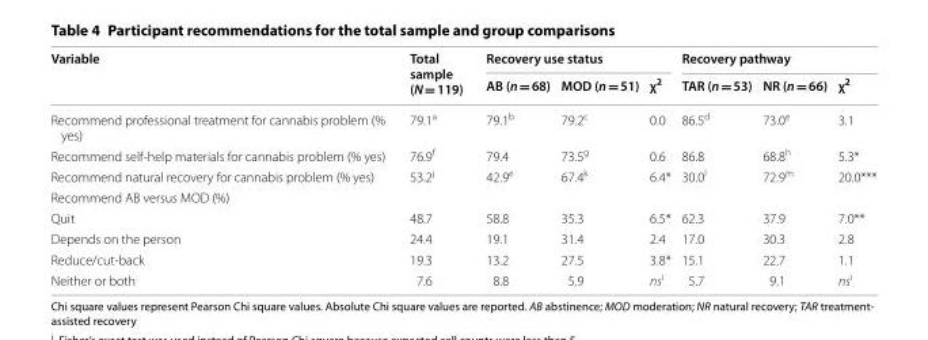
<table><thead><tr><td rowspan="2">Variable</td><td rowspan="2">Total sample (N = 119)</td><td colspan="3">Recovery use status</td><td colspan="3">Recovery pathway</td></tr><tr><td>AB (n = 68)</td><td>MOD (n = 51)</td><td>χ<sup>2</sup></td><td>TAR (n = 53)</td><td>NR (n = 66)</td><td>χ<sup>2</sup></td></tr></thead><tbody><tr><td>Recommend professional treatment for cannabis problem (% yes)</td><td>79.1<sup>a</sup></td><td>79.1<sup>b</sup></td><td>79.2<sup>c</sup></td><td>0.0</td><td>86.5<sup>d</sup></td><td>73.0<sup>e</sup></td><td>3.1</td></tr><tr><td>Recommend self-help materials for cannabis problem (% yes)</td><td>76.9<sup>f</sup></td><td>79.4</td><td>73.5<sup>g</sup></td><td>0.6</td><td>86.8</td><td>68.8<sup>h</sup></td><td>5.3*</td></tr><tr><td>Recommend natural recovery for cannabis problem (% yes)</td><td>53.2<sup>j</sup></td><td>42.9<sup>e</sup></td><td>67.4<sup>k</sup></td><td>6.4*</td><td>30.0<sup>l</sup></td><td>72.9<sup>m</sup></td><td>20.0***</td></tr><tr><td colspan="8">Recommend AB versus MOD (%)</td></tr><tr><td>Quit</td><td>48.7</td><td>58.8</td><td>35.3</td><td>6.5*</td><td>62.3</td><td>37.9</td><td>7.0**</td></tr><tr><td>Depends on the person</td><td>24.4</td><td>19.1</td><td>31.4</td><td>2.4</td><td>17.0</td><td>30.3</td><td>2.8</td></tr><tr><td>Reduce/cut-back</td><td>19.3</td><td>13.2</td><td>27.5</td><td>3.8*</td><td>15.1</td><td>22.7</td><td>1.1</td></tr><tr><td>Neither or both</td><td>7.6</td><td>8.8</td><td>5.9</td><td>ns<sup>i</sup></td><td>5.7</td><td>9.1</td><td>ns<sup>i</sup></td></tr></tbody></table>